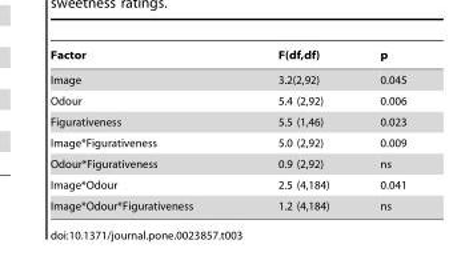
<table><thead><tr><td>Factor</td><td>F(df,df)</td><td>p</td></tr></thead><tbody><tr><td>Image</td><td>3.2(2,92)</td><td>0.045</td></tr><tr><td>Odour</td><td>5.4 (2,92)</td><td>0.006</td></tr><tr><td>Figurativeness</td><td>5.5 (1,46)</td><td>0.023</td></tr><tr><td>Image*Figurativeness</td><td>5.0 (2,92)</td><td>0.009</td></tr><tr><td>Odour*Figurativeness</td><td>0.9 (2,92)</td><td>ns</td></tr><tr><td>Image*Odour</td><td>2.5 (4,184)</td><td>0.041</td></tr><tr><td>Image*Odour*Figurativeness</td><td>1.2 (4,184)</td><td>ns</td></tr></tbody></table>